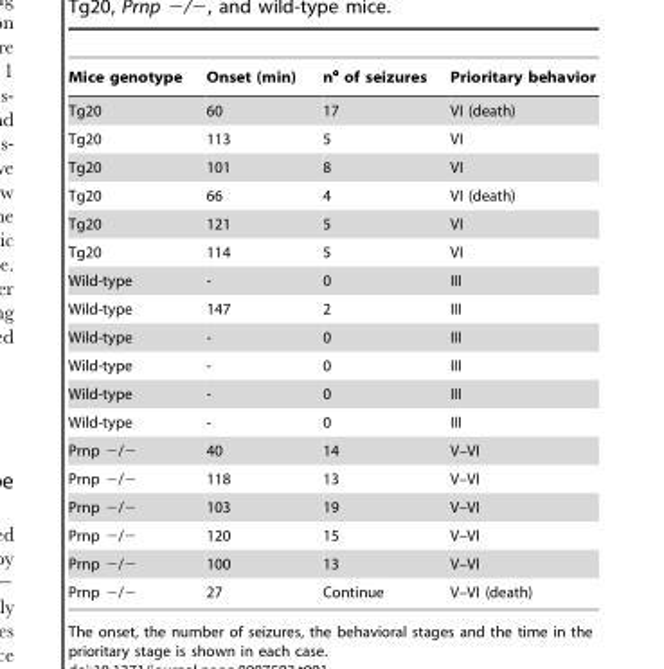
<table><thead><tr><td>Mice genotype</td><td>Onset (min)</td><td>n° of seizures</td><td>Prioritary behavior</td></tr></thead><tbody><tr><td>Tg20</td><td>60</td><td>17</td><td>VI (death)</td></tr><tr><td>Tg20</td><td>113</td><td>5</td><td>VI</td></tr><tr><td>Tg20</td><td>101</td><td>8</td><td>VI</td></tr><tr><td>Tg20</td><td>66</td><td>4</td><td>VI (death)</td></tr><tr><td>Tg20</td><td>121</td><td>5</td><td>VI</td></tr><tr><td>Tg20</td><td>114</td><td>5</td><td>VI</td></tr><tr><td>Wild-type</td><td>-</td><td>0</td><td>III</td></tr><tr><td>Wild-type</td><td>147</td><td>2</td><td>III</td></tr><tr><td>Wild-type</td><td>-</td><td>0</td><td>III</td></tr><tr><td>Wild-type</td><td>-</td><td>0</td><td>III</td></tr><tr><td>Wild-type</td><td>-</td><td>0</td><td>III</td></tr><tr><td>Wild-type</td><td>-</td><td>0</td><td>III</td></tr><tr><td>Prnp −/−</td><td>40</td><td>14</td><td>V–VI</td></tr><tr><td>Prnp −/−</td><td>118</td><td>13</td><td>V–VI</td></tr><tr><td>Prnp −/−</td><td>103</td><td>19</td><td>V–VI</td></tr><tr><td>Prnp −/−</td><td>120</td><td>15</td><td>V–VI</td></tr><tr><td>Prnp −/−</td><td>100</td><td>13</td><td>V–VI</td></tr><tr><td>Prnp −/−</td><td>27</td><td>Continue</td><td>V–VI (death)</td></tr></tbody></table>